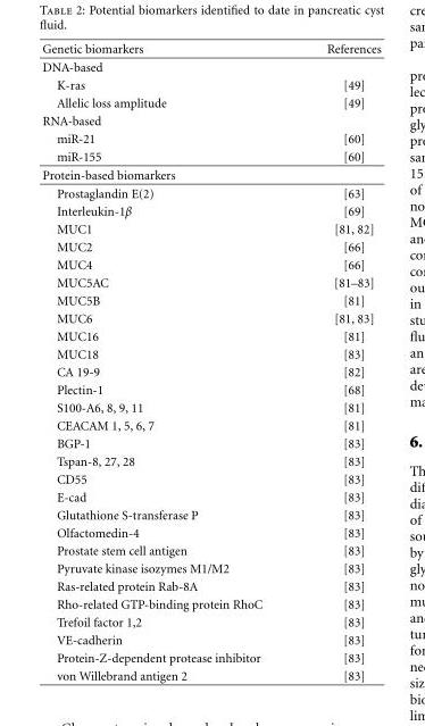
<table><thead><tr><td>Genetic biomarkers</td><td>References</td></tr></thead><tbody><tr><td colspan="2">DNA-based</td></tr><tr><td>K-ras</td><td>[49]</td></tr><tr><td>Allelic loss amplitude</td><td>[49]</td></tr><tr><td colspan="2">RNA-based</td></tr><tr><td>miR-21</td><td>[60]</td></tr><tr><td>miR-155</td><td>[60]</td></tr><tr><td colspan="2">Protein-based biomarkers</td></tr><tr><td>Prostaglandin E(2)</td><td>[63]</td></tr><tr><td>Interleukin-1β</td><td>[69]</td></tr><tr><td>MUC1</td><td>[81, 82]</td></tr><tr><td>MUC2</td><td>[66]</td></tr><tr><td>MUC4</td><td>[66]</td></tr><tr><td>MUC5AC</td><td>[81–83]</td></tr><tr><td>MUC5B</td><td>[81]</td></tr><tr><td>MUC6</td><td>[81, 83]</td></tr><tr><td>MUC16</td><td>[81]</td></tr><tr><td>MUC18</td><td>[83]</td></tr><tr><td>CA 19-9</td><td>[82]</td></tr><tr><td>Plectin-1</td><td>[68]</td></tr><tr><td>S100-A6, 8, 9, 11</td><td>[81]</td></tr><tr><td>CEACAM 1, 5, 6, 7</td><td>[81]</td></tr><tr><td>BGP-1</td><td>[83]</td></tr><tr><td>Tspan-8, 27, 28</td><td>[83]</td></tr><tr><td>CD55</td><td>[83]</td></tr><tr><td>E-cad</td><td>[83]</td></tr><tr><td>Glutathione S-transferase P</td><td>[83]</td></tr><tr><td>Olfactomedin-4</td><td>[83]</td></tr><tr><td>Prostate stem cell antigen</td><td>[83]</td></tr><tr><td>Pyruvate kinase isozymes M1/M2</td><td>[83]</td></tr><tr><td>Ras-related protein Rab-8A</td><td>[83]</td></tr><tr><td>Rho-related GTP-binding protein RhoC</td><td>[83]</td></tr><tr><td>Trefoil factor 1,2</td><td>[83]</td></tr><tr><td>VE-cadherin</td><td>[83]</td></tr><tr><td>Protein-Z-dependent protease inhibitor</td><td>[83]</td></tr><tr><td>von Willebrand antigen 2</td><td>[83]</td></tr></tbody></table>